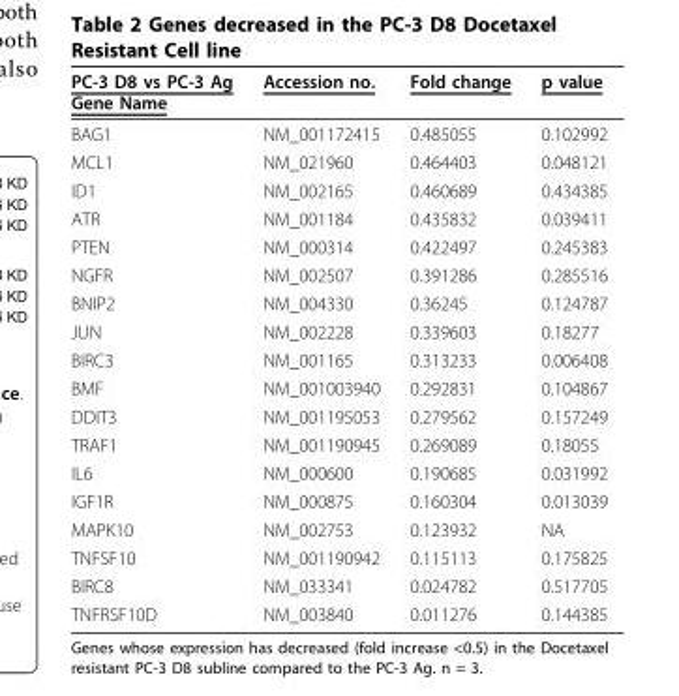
<table><thead><tr><td>PC-3 D8 vs PC-3 Ag Gene Name</td><td>Accession no.</td><td>Fold change</td><td>p value</td></tr></thead><tbody><tr><td>BAG1</td><td>NM_001172415</td><td>0.485055</td><td>0.102992</td></tr><tr><td>MCL1</td><td>NM_021960</td><td>0.464403</td><td>0.048121</td></tr><tr><td>ID1</td><td>NM_002165</td><td>0.460689</td><td>0.434385</td></tr><tr><td>ATR</td><td>NM_001184</td><td>0.435832</td><td>0.039411</td></tr><tr><td>PTEN</td><td>NM_000314</td><td>0.422497</td><td>0.245383</td></tr><tr><td>NGFR</td><td>NM_002507</td><td>0.391286</td><td>0.285516</td></tr><tr><td>BNIP2</td><td>NM_004330</td><td>0.36245</td><td>0.124787</td></tr><tr><td>JUN</td><td>NM_002228</td><td>0.339603</td><td>0.18277</td></tr><tr><td>BIRC3</td><td>NM_001165</td><td>0.313233</td><td>0.006408</td></tr><tr><td>BMF</td><td>NM_001003940</td><td>0.292831</td><td>0.104867</td></tr><tr><td>DDIT3</td><td>NM_001195053</td><td>0.279562</td><td>0.157249</td></tr><tr><td>TRAF1</td><td>NM_001190945</td><td>0.269089</td><td>0.18055</td></tr><tr><td>IL6</td><td>NM_000600</td><td>0.190685</td><td>0.031992</td></tr><tr><td>IGF1R</td><td>NM_000875</td><td>0.160304</td><td>0.013039</td></tr><tr><td>MAPK10</td><td>NM_002753</td><td>0.123932</td><td>NA</td></tr><tr><td>TNFSF10</td><td>NM_001190942</td><td>0.115113</td><td>0.175825</td></tr><tr><td>BIRC8</td><td>NM_033341</td><td>0.024782</td><td>0.517705</td></tr><tr><td>TNFRSF10D</td><td>NM_003840</td><td>0.011276</td><td>0.144385</td></tr></tbody></table>